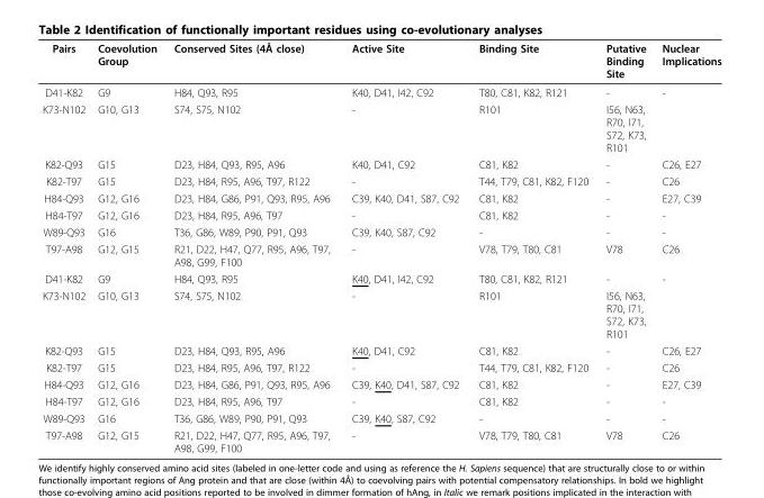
<table><thead><tr><td>Pairs</td><td>Coevolution Group</td><td>Conserved Sites (4Å close)</td><td>Active Site</td><td>Binding Site</td><td>Putative Binding Site</td><td>Nuclear Implications</td></tr></thead><tbody><tr><td>D41-K82</td><td>G9</td><td>H84, Q93, R95</td><td>K40, D41, I42, C92</td><td>T80, C81, K82, R121</td><td>-</td><td>-</td></tr><tr><td>K73-N102</td><td>G10, G13</td><td>S74, S75, N102</td><td>-</td><td>R101</td><td>I56, N63, R70, I71, S72, K73, R101</td><td></td></tr><tr><td>K82-Q93</td><td>G15</td><td>D23, H84, Q93, R95, A96</td><td>K40, D41, C92</td><td>C81, K82</td><td>-</td><td>C26, E27</td></tr><tr><td>K82-T97</td><td>G15</td><td>D23, H84, R95, A96, T97, R122</td><td>-</td><td>T44, T79, C81, K82, F120</td><td>-</td><td>C26</td></tr><tr><td>H84-Q93</td><td>G12, G16</td><td>D23, H84, G86, P91, Q93, R95, A96</td><td>C39, K40, D41, S87, C92</td><td>C81, K82</td><td>-</td><td>E27, C39</td></tr><tr><td>H84-T97</td><td>G12, G16</td><td>D23, H84, R95, A96, T97</td><td>-</td><td>C81, K82</td><td>-</td><td>-</td></tr><tr><td>W89-Q93</td><td>G16</td><td>T36, G86, W89, P90, P91, Q93</td><td>C39, K40, S87, C92</td><td>-</td><td>-</td><td>-</td></tr><tr><td>T97-A98</td><td>G12, G15</td><td>R21, D22, H47, Q77, R95, A96, T97, A98, G99, F100</td><td>-</td><td>V78, T79, T80, C81</td><td>V78</td><td>C26</td></tr><tr><td>D41-K82</td><td>G9</td><td>H84, Q93, R95</td><td>K40, D41, I42, C92</td><td>T80, C81, K82, R121</td><td>-</td><td>-</td></tr><tr><td>K73-N102</td><td>G10, G13</td><td>S74, S75, N102</td><td>-</td><td>R101</td><td>I56, N63, R70, I71, S72, K73, R101</td><td></td></tr><tr><td>K82-Q93</td><td>G15</td><td>D23, H84, Q93, R95, A96</td><td>K40, D41, C92</td><td>C81, K82</td><td>-</td><td>C26, E27</td></tr><tr><td>K82-T97</td><td>G15</td><td>D23, H84, R95, A96, T97, R122</td><td>-</td><td>T44, T79, C81, K82, F120</td><td>-</td><td>C26</td></tr><tr><td>H84-Q93</td><td>G12, G16</td><td>D23, H84, G86, P91, Q93, R95, A96</td><td>C39, K40, D41, S87, C92</td><td>C81, K82</td><td>-</td><td>E27, C39</td></tr><tr><td>H84-T97</td><td>G12, G16</td><td>D23, H84, R95, A96, T97</td><td>-</td><td>C81, K82</td><td>-</td><td>-</td></tr><tr><td>W89-Q93</td><td>G16</td><td>T36, G86, W89, P90, P91, Q93</td><td>C39, K40, S87, C92</td><td>-</td><td>-</td><td>-</td></tr><tr><td>T97-A98</td><td>G12, G15</td><td>R21, D22, H47, Q77, R95, A96, T97, A98, G99, F100</td><td>-</td><td>V78, T79, T80, C81</td><td>V78</td><td>C26</td></tr></tbody></table>